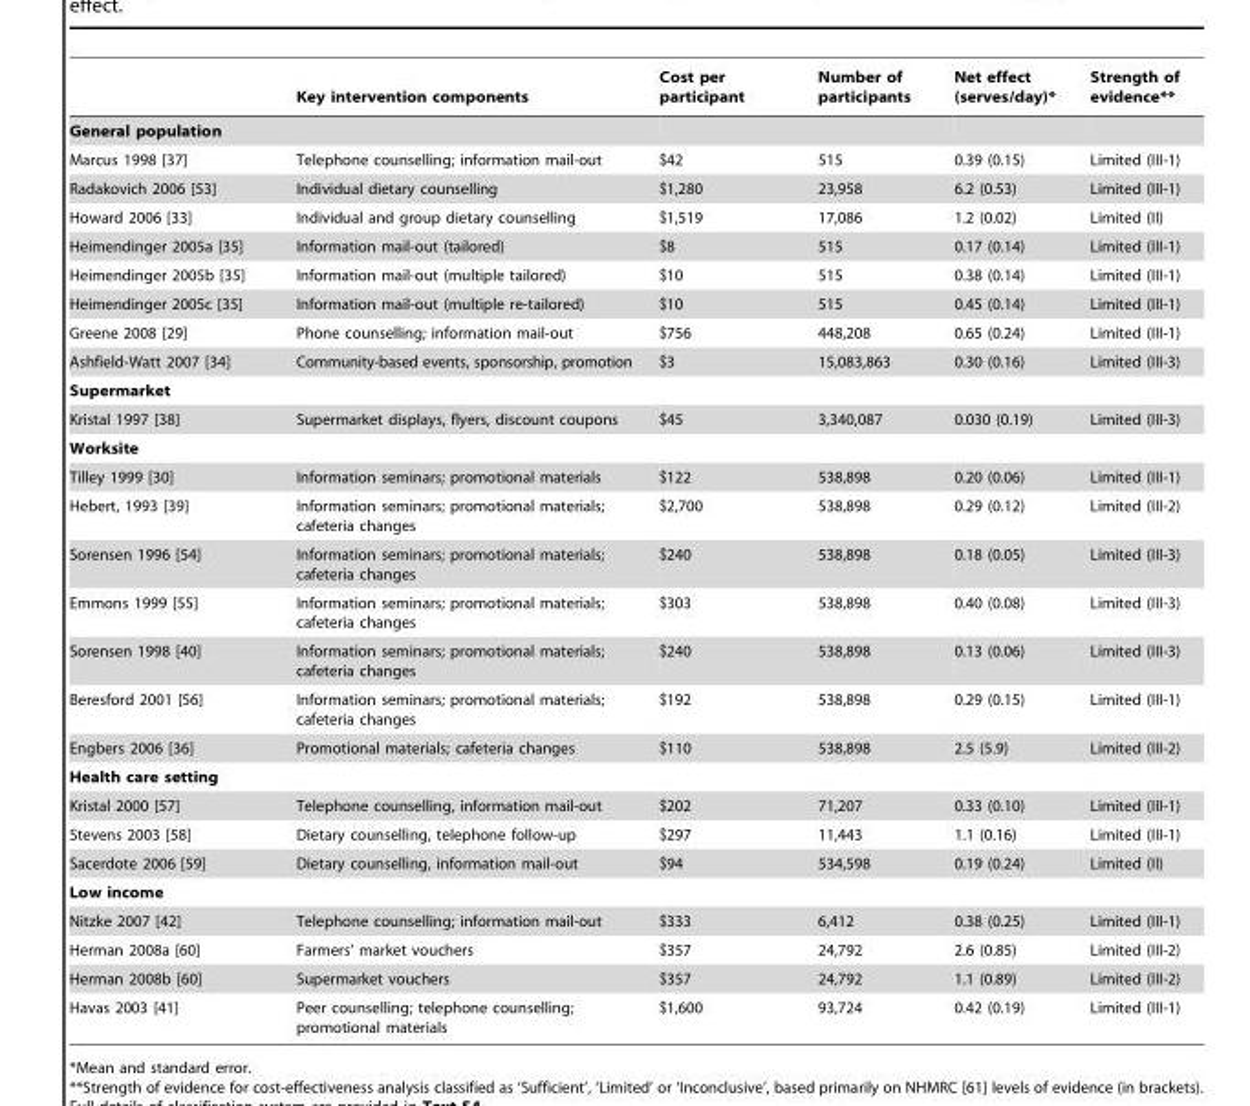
<table><thead><tr><td></td><td>Key intervention components</td><td>Cost per participant</td><td>Number of participants</td><td>Net effect (serves/day)*</td><td>Strength of evidence**</td></tr></thead><tbody><tr><td colspan="6">General population</td></tr><tr><td>Marcus 1998 [37]</td><td>Telephone counselling; information mail-out</td><td>$42</td><td>515</td><td>0.39 (0.15)</td><td>Limited (III-1)</td></tr><tr><td>Radakovich 2006 [53]</td><td>Individual dietary counselling</td><td>$1,280</td><td>23,958</td><td>6.2 (0.53)</td><td>Limited (III-1)</td></tr><tr><td>Howard 2006 [33]</td><td>Individual and group dietary counselling</td><td>$1,519</td><td>17,086</td><td>1.2 (0.02)</td><td>Limited (II)</td></tr><tr><td>Heimendinger 2005a [35]</td><td>Information mail-out (tailored)</td><td>$8</td><td>515</td><td>0.17 (0.14)</td><td>Limited (III-1)</td></tr><tr><td>Heimendinger 2005b [35]</td><td>Information mail-out (multiple tailored)</td><td>$10</td><td>515</td><td>0.38 (0.14)</td><td>Limited (III-1)</td></tr><tr><td>Heimendinger 2005c [35]</td><td>Information mail-out (multiple re-tailored)</td><td>$10</td><td>515</td><td>0.45 (0.14)</td><td>Limited (III-1)</td></tr><tr><td>Greene 2008 [29]</td><td>Phone counselling; information mail-out</td><td>$756</td><td>448,208</td><td>0.65 (0.24)</td><td>Limited (III-1)</td></tr><tr><td>Ashfield-Watt 2007 [34]</td><td>Community-based events, sponsorship, promotion</td><td>$3</td><td>15,083,863</td><td>0.30 (0.16)</td><td>Limited (III-3)</td></tr><tr><td colspan="6">Supermarket</td></tr><tr><td>Kristal 1997 [38]</td><td>Supermarket displays, flyers, discount coupons</td><td>$45</td><td>3,340,087</td><td>0.030 (0.19)</td><td>Limited (III-3)</td></tr><tr><td colspan="6">Worksite</td></tr><tr><td>Tilley 1999 [30]</td><td>Information seminars; promotional materials</td><td>$122</td><td>538,898</td><td>0.20 (0.06)</td><td>Limited (III-1)</td></tr><tr><td>Hebert, 1993 [39]</td><td>Information seminars; promotional materials; cafeteria changes</td><td>$2,700</td><td>538,898</td><td>0.29 (0.12)</td><td>Limited (III-2)</td></tr><tr><td>Sorensen 1996 [54]</td><td>Information seminars; promotional materials; cafeteria changes</td><td>$240</td><td>538,898</td><td>0.18 (0.05)</td><td>Limited (III-3)</td></tr><tr><td>Emmons 1999 [55]</td><td>Information seminars; promotional materials; cafeteria changes</td><td>$303</td><td>538,898</td><td>0.40 (0.08)</td><td>Limited (III-3)</td></tr><tr><td>Sorensen 1998 [40]</td><td>Information seminars; promotional materials; cafeteria changes</td><td>$240</td><td>538,898</td><td>0.13 (0.06)</td><td>Limited (III-3)</td></tr><tr><td>Beresford 2001 [56]</td><td>Information seminars; promotional materials; cafeteria changes</td><td>$192</td><td>538,898</td><td>0.29 (0.15)</td><td>Limited (III-1)</td></tr><tr><td>Engbers 2006 [36]</td><td>Promotional materials; cafeteria changes</td><td>$110</td><td>538,898</td><td>2.5 (5.9)</td><td>Limited (III-2)</td></tr><tr><td colspan="6">Health care setting</td></tr><tr><td>Kristal 2000 [57]</td><td>Telephone counselling, information mail-out</td><td>$202</td><td>71,207</td><td>0.33 (0.10)</td><td>Limited (III-1)</td></tr><tr><td>Stevens 2003 [58]</td><td>Dietary counselling, telephone follow-up</td><td>$297</td><td>11,443</td><td>1.1 (0.16)</td><td>Limited (III-1)</td></tr><tr><td>Sacerdote 2006 [59]</td><td>Dietary counselling, information mail-out</td><td>$94</td><td>534,598</td><td>0.19 (0.24)</td><td>Limited (II)</td></tr><tr><td colspan="6">Low income</td></tr><tr><td>Nitzke 2007 [42]</td><td>Telephone counselling; information mail-out</td><td>$333</td><td>6,412</td><td>0.38 (0.25)</td><td>Limited (III-1)</td></tr><tr><td>Herman 2008a [60]</td><td>Farmers’ market vouchers</td><td>$357</td><td>24,792</td><td>2.6 (0.85)</td><td>Limited (III-2)</td></tr><tr><td>Herman 2008b [60]</td><td>Supermarket vouchers</td><td>$357</td><td>24,792</td><td>1.1 (0.89)</td><td>Limited (III-2)</td></tr><tr><td>Havas 2003 [41]</td><td>Peer counselling; telephone counselling; promotional materials</td><td>$1,600</td><td>93,724</td><td>0.42 (0.19)</td><td>Limited (III-1)</td></tr></tbody></table>